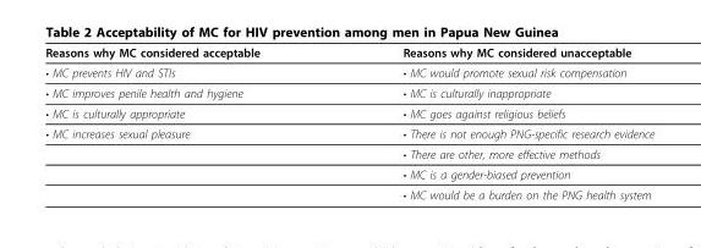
<table><thead><tr><td>Reasons why MC considered acceptable</td><td>Reasons why MC considered unacceptable</td></tr></thead><tbody><tr><td>• MC prevents HIV and STIs</td><td>• MC would promote sexual risk compensation</td></tr><tr><td>• MC improves penile health and hygiene</td><td>• MC is culturally inappropriate</td></tr><tr><td>• MC is culturally appropriate</td><td>• MC goes against religious beliefs</td></tr><tr><td rowspan="4">• MC increases sexual pleasure</td><td>• There is not enough PNG-specific research evidence</td></tr><tr><td>• There are other, more effective methods</td></tr><tr><td>• MC is a gender-biased prevention</td></tr><tr><td>• MC would be a burden on the PNG health system</td></tr></tbody></table>